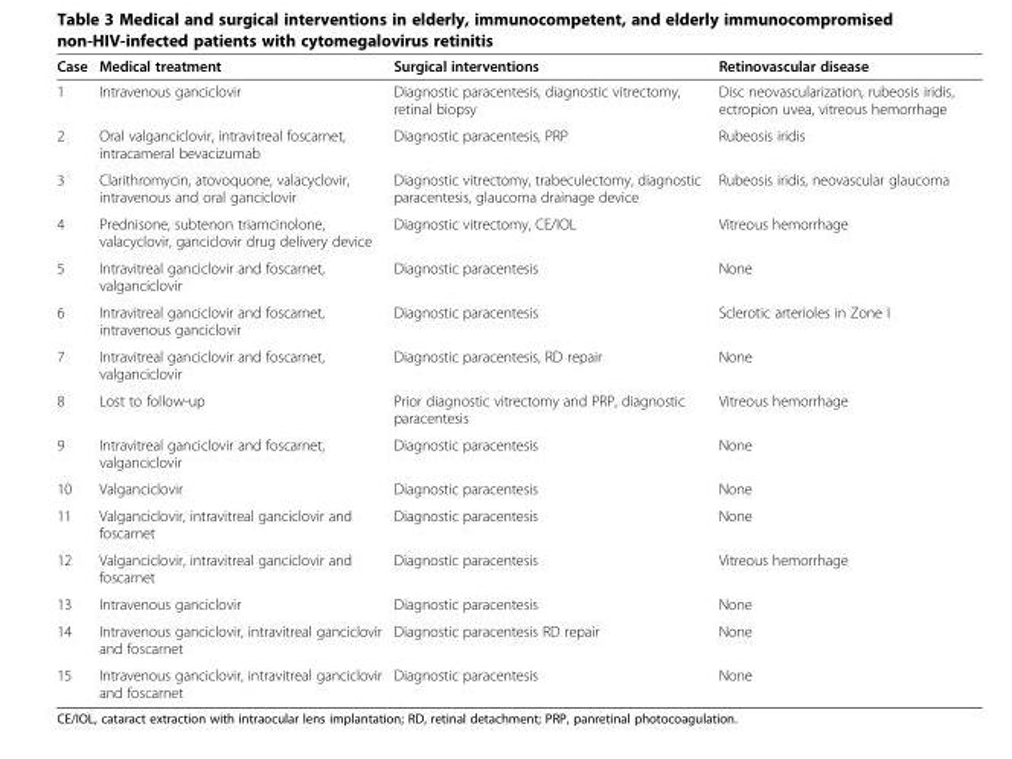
<table><thead><tr><td>Case</td><td>Medical treatment</td><td>Surgical interventions</td><td>Retinovascular disease</td></tr></thead><tbody><tr><td>1</td><td>Intravenous ganciclovir</td><td>Diagnostic paracentesis, diagnostic vitrectomy, retinal biopsy</td><td>Disc neovascularization, rubeosis iridis, ectropion uvea, vitreous hemorrhage</td></tr><tr><td>2</td><td>Oral valganciclovir, intravitreal foscarnet, intracameral bevacizumab</td><td>Diagnostic paracentesis, PRP</td><td>Rubeosis iridis</td></tr><tr><td>3</td><td>Clarithromycin, atovoquone, valacyclovir, intravenous and oral ganciclovir</td><td>Diagnostic vitrectomy, trabeculectomy, diagnostic paracentesis, glaucoma drainage device</td><td>Rubeosis iridis, neovascular glaucoma</td></tr><tr><td>4</td><td>Prednisone, subtenon triamcinolone, valacyclovir, ganciclovir drug delivery device</td><td>Diagnostic vitrectomy, CE/IOL</td><td>Vitreous hemorrhage</td></tr><tr><td>5</td><td>Intravitreal ganciclovir and foscarnet, valganciclovir</td><td>Diagnostic paracentesis</td><td>None</td></tr><tr><td>6</td><td>Intravitreal ganciclovir and foscarnet, intravenous ganciclovir</td><td>Diagnostic paracentesis</td><td>Sclerotic arterioles in Zone I</td></tr><tr><td>7</td><td>Intravitreal ganciclovir and foscarnet, valganciclovir</td><td>Diagnostic paracentesis, RD repair</td><td>None</td></tr><tr><td>8</td><td>Lost to follow-up</td><td>Prior diagnostic vitrectomy and PRP, diagnostic paracentesis</td><td>Vitreous hemorrhage</td></tr><tr><td>9</td><td>Intravitreal ganciclovir and foscarnet, valganciclovir</td><td>Diagnostic paracentesis</td><td>None</td></tr><tr><td>10</td><td>Valganciclovir</td><td>Diagnostic paracentesis</td><td>None</td></tr><tr><td>11</td><td>Valganciclovir, intravitreal ganciclovir and foscarnet</td><td>Diagnostic paracentesis</td><td>None</td></tr><tr><td>12</td><td>Valganciclovir, intravitreal ganciclovir and foscarnet</td><td>Diagnostic paracentesis</td><td>Vitreous hemorrhage</td></tr><tr><td>13</td><td>Intravenous ganciclovir</td><td>Diagnostic paracentesis</td><td>None</td></tr><tr><td>14</td><td>Intravenous ganciclovir, intravitreal ganciclovir and foscarnet</td><td>Diagnostic paracentesis RD repair</td><td>None</td></tr><tr><td>15</td><td>Intravenous ganciclovir, intravitreal ganciclovir and foscarnet</td><td>Diagnostic paracentesis</td><td>None</td></tr></tbody></table>